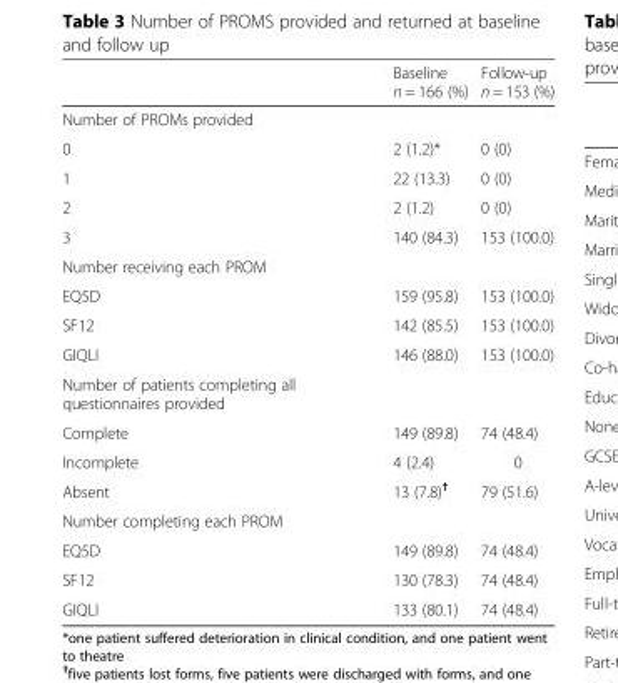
<table><thead><tr><td></td><td>Baseline n = 166 (%)</td><td>Follow-up n = 153 (%)</td></tr></thead><tbody><tr><td colspan="3">Number of PROMs provided</td></tr><tr><td>0</td><td>2 (1.2)*</td><td>0 (0)</td></tr><tr><td>1</td><td>22 (13.3)</td><td>0 (0)</td></tr><tr><td>2</td><td>2 (1.2)</td><td>0 (0)</td></tr><tr><td>3</td><td>140 (84.3)</td><td>153 (100.0)</td></tr><tr><td colspan="3">Number receiving each PROM</td></tr><tr><td>EQ5D</td><td>159 (95.8)</td><td>153 (100.0)</td></tr><tr><td>SF12</td><td>142 (85.5)</td><td>153 (100.0)</td></tr><tr><td>GIQLI</td><td>146 (88.0)</td><td>153 (100.0)</td></tr><tr><td colspan="3">Number of patients completing all questionnaires provided</td></tr><tr><td>Complete</td><td>149 (89.8)</td><td>74 (48.4)</td></tr><tr><td>Incomplete</td><td>4 (2.4)</td><td>0</td></tr><tr><td>Absent</td><td>13 (7.8)<sup>†</sup></td><td>79 (51.6)</td></tr><tr><td colspan="3">Number completing each PROM</td></tr><tr><td>EQ5D</td><td>149 (89.8)</td><td>74 (48.4)</td></tr><tr><td>SF12</td><td>130 (78.3)</td><td>74 (48.4)</td></tr><tr><td>GIQLI</td><td>133 (80.1)</td><td>74 (48.4)</td></tr></tbody></table>